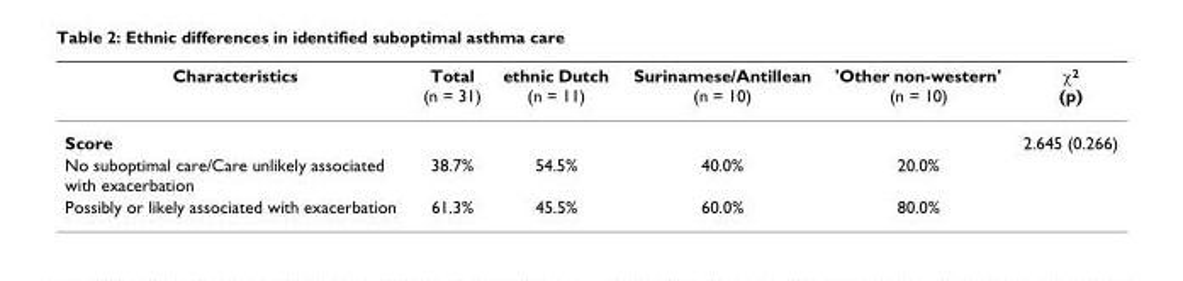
<table><thead><tr><td>Characteristics</td><td>Total (n = 31)</td><td>ethnic Dutch (n = 11)</td><td>Surinamese/Antillean (n = 10)</td><td>&#x27;Other non-western&#x27; (n = 10)</td><td>χ<sup>2</sup> (p)</td></tr></thead><tbody><tr><td>Score</td><td></td><td></td><td></td><td></td><td>2.645 (0.266)</td></tr><tr><td>No suboptimal care/Care unlikely associated with exacerbation</td><td>38.7%</td><td>54.5%</td><td>40.0%</td><td>20.0%</td><td></td></tr><tr><td>Possibly or likely associated with exacerbation</td><td>61.3%</td><td>45.5%</td><td>60.0%</td><td>80.0%</td><td></td></tr></tbody></table>